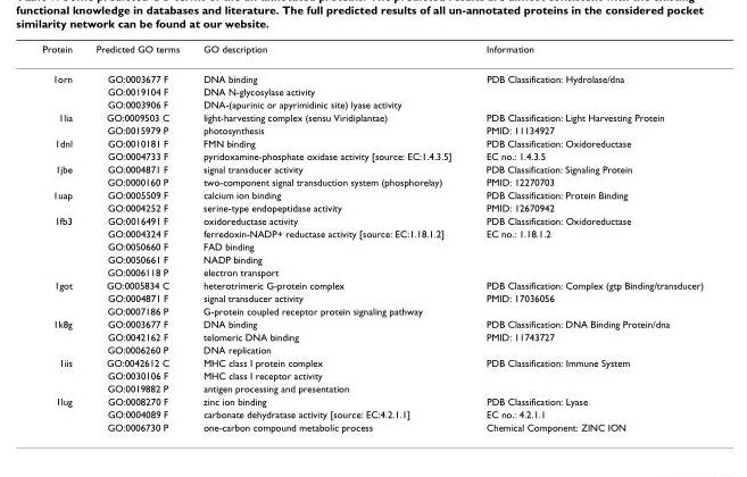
<table><thead><tr><td>Protein</td><td>Predicted GO terms</td><td>GO description</td><td>Information</td></tr></thead><tbody><tr><td rowspan="3">1orn</td><td>GO:0003677 F</td><td>DNA binding</td><td>PDB Classification: Hydrolase/dna</td></tr><tr><td>GO:0019104 F</td><td>DNA N-glycosylase activity</td><td></td></tr><tr><td>GO:0003906 F</td><td>DNA-(apurinic or apyrimidinic site) lyase activity</td><td></td></tr><tr><td rowspan="2">1lia</td><td>GO:0009503 C</td><td>light-harvesting complex (sensu Viridiplantae)</td><td>PDB Classification: Light Harvesting Protein</td></tr><tr><td>GO:0015979 P</td><td>photosynthesis</td><td>PMID: 11134927</td></tr><tr><td rowspan="2">1dnl</td><td>GO:0010181 F</td><td>FMN binding</td><td>PDB Classification: Oxidoreductase</td></tr><tr><td>GO:0004733 F</td><td>pyridoxamine-phosphate oxidase activity [source: EC:1.4.3.5]</td><td>EC no.: 1.4.3.5</td></tr><tr><td rowspan="2">1jbe</td><td>GO:0004871 F</td><td>signal transducer activity</td><td>PDB Classification: Signaling Protein</td></tr><tr><td>GO:0000160 P</td><td>two-component signal transduction system (phosphorelay)</td><td>PMID: 12270703</td></tr><tr><td rowspan="2">1uap</td><td>GO:0005509 F</td><td>calcium ion binding</td><td>PDB Classification: Protein Binding</td></tr><tr><td>GO:0004252 F</td><td>serine-type endopeptidase activity</td><td>PMID: 12670942</td></tr><tr><td rowspan="5">1fb3</td><td>GO:0016491 F</td><td>oxidoreductase activity</td><td>PDB Classification: Oxidoreductase</td></tr><tr><td>GO:0004324 F</td><td>ferredoxin-NADP+ reductase activity [source: EC:1.18.1.2]</td><td>EC no.: 1.18.1.2</td></tr><tr><td>GO:0050660 F</td><td>FAD binding</td><td></td></tr><tr><td>GO:0050661 F</td><td>NADP binding</td><td></td></tr><tr><td>GO:0006118 P</td><td>electron transport</td><td></td></tr><tr><td rowspan="3">1got</td><td>GO:0005834 C</td><td>heterotrimeric G-protein complex</td><td>PDB Classification: Complex (gtp Binding/transducer)</td></tr><tr><td>GO:0004871 F</td><td>signal transducer activity</td><td>PMID: 17036056</td></tr><tr><td>GO:0007186 P</td><td>G-protein coupled receptor protein signaling pathway</td><td></td></tr><tr><td rowspan="3">1k8g</td><td>GO:0003677 F</td><td>DNA binding</td><td>PDB Classification: DNA Binding Protein/dna</td></tr><tr><td>GO:0042162 F</td><td>telomeric DNA binding</td><td>PMID: 11743727</td></tr><tr><td>GO:0006260 P</td><td>DNA replication</td><td></td></tr><tr><td rowspan="3">1iis</td><td>GO:0042612 C</td><td>MHC class I protein complex</td><td>PDB Classification: Immune System</td></tr><tr><td>GO:0030106 F</td><td>MHC class I receptor activity</td><td></td></tr><tr><td>GO:0019882 P</td><td>antigen processing and presentation</td><td></td></tr><tr><td rowspan="3">1lug</td><td>GO:0008270 F</td><td>zinc ion binding</td><td>PDB Classification: Lyase</td></tr><tr><td>GO:0004089 F</td><td>carbonate dehydratase activity [source: EC:4.2.1.1]</td><td>EC no.: 4.2.1.1</td></tr><tr><td>GO:0006730 P</td><td>one-carbon compound metabolic process</td><td>Chemical Component: ZINC ION</td></tr></tbody></table>